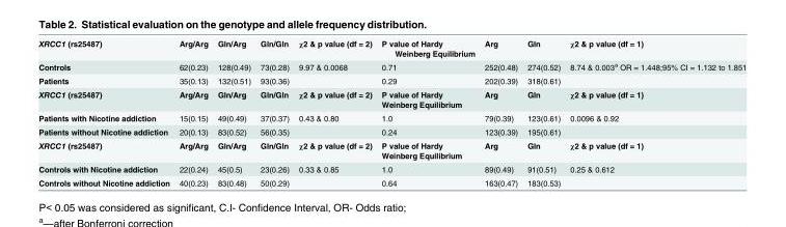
<table><tbody><tr><td>XRCC1 (rs25487)</td><td>Arg/Arg</td><td>Gln/Arg</td><td>Gln/Gln</td><td>χ2 &amp; p value (df = 2)</td><td>P value of Hardy Weinberg Equilibrium</td><td>Arg</td><td>Gln</td><td>χ2 &amp; p value (df = 1)</td></tr><tr><td>Controls</td><td>62(0.23)</td><td>128(0.49)</td><td>73(0.28)</td><td>9.97 &amp; 0.0068</td><td>0.71</td><td>252(0.48)</td><td>274(0.52)</td><td>8.74 &amp; 0.003<sup>a</sup> OR = 1.448;95% CI = 1.132 to 1.851</td></tr><tr><td>Patients</td><td>35(0.13)</td><td>132(0.51)</td><td>93(0.36)</td><td></td><td>0.29</td><td>202(0.39)</td><td>318(0.61)</td><td></td></tr><tr><td>XRCC1 (rs25487)</td><td>Arg/Arg</td><td>Gln/Arg</td><td>Gln/Gln</td><td>χ2 &amp; p value (df = 2)</td><td>P value of Hardy Weinberg Equilibrium</td><td>Arg</td><td>Gln</td><td>χ2 &amp; p value (df = 1)</td></tr><tr><td>Patients with Nicotine addiction</td><td>15(0.15)</td><td>49(0.49)</td><td>37(0.37)</td><td>0.43 &amp; 0.80</td><td>1.0</td><td>79(0.39)</td><td>123(0.61)</td><td>0.0096 &amp; 0.92</td></tr><tr><td>Patients without Nicotine addiction</td><td>20(0.13)</td><td>83(0.52)</td><td>56(0.35)</td><td></td><td>0.24</td><td>123(0.39)</td><td>195(0.61)</td><td></td></tr><tr><td>XRCC1 (rs25487)</td><td>Arg/Arg</td><td>Gln/Arg</td><td>Gln/Gln</td><td>χ2 &amp; p value (df = 2)</td><td>P value of Hardy Weinberg Equilibrium</td><td>Arg</td><td>Gln</td><td>χ2 &amp; p value (df = 1)</td></tr><tr><td>Controls with Nicotine addiction</td><td>22(0.24)</td><td>45(0.5)</td><td>23(0.26)</td><td>0.33 &amp; 0.85</td><td>1.0</td><td>89(0.49)</td><td>91(0.51)</td><td>0.25 &amp; 0.612</td></tr><tr><td>Controls without Nicotine addiction</td><td>40(0.23)</td><td>83(0.48)</td><td>50(0.29)</td><td></td><td>0.64</td><td>163(0.47)</td><td>183(0.53)</td><td></td></tr></tbody></table>